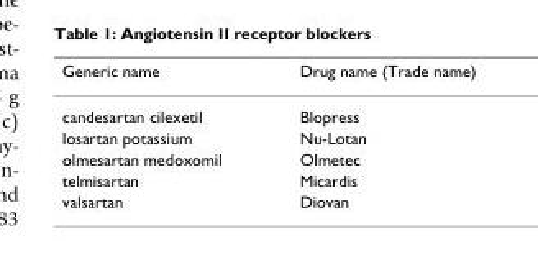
<table><thead><tr><td>Generic name</td><td>Drug name (Trade name)</td></tr></thead><tbody><tr><td>candesartan cilexetil</td><td>Blopress</td></tr><tr><td>losartan potassium</td><td>Nu-Lotan</td></tr><tr><td>olmesartan medoxomil</td><td>Olmetec</td></tr><tr><td>telmisartan</td><td>Micardis</td></tr><tr><td>valsartan</td><td>Diovan</td></tr></tbody></table>